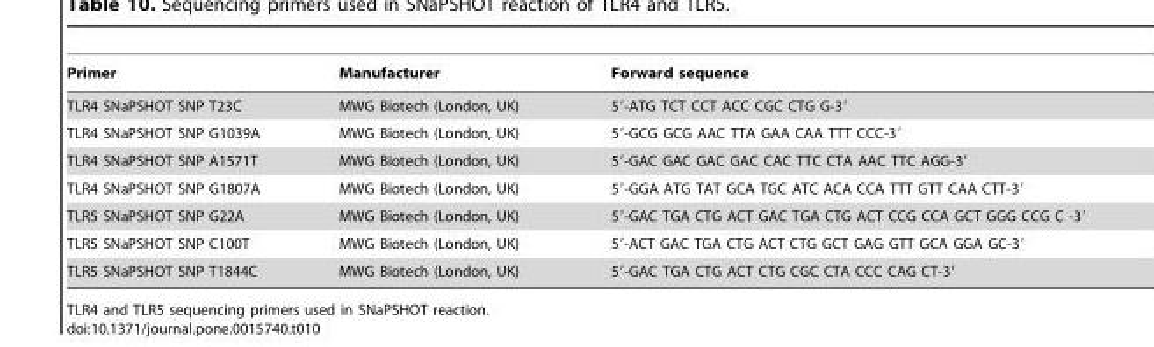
<table><thead><tr><td>Primer</td><td>Manufacturer</td><td>Forward sequence</td></tr></thead><tbody><tr><td>TLR4 SNaPSHOT SNP T23C</td><td>MWG Biotech (London, UK)</td><td>5′-ATG TCT CCT ACC CGC CTG G-3′</td></tr><tr><td>TLR4 SNaPSHOT SNP G1039A</td><td>MWG Biotech (London, UK)</td><td>5′-GCG GCG AAC TTA GAA CAA TTT CCC-3′</td></tr><tr><td>TLR4 SNaPSHOT SNP A1571T</td><td>MWG Biotech (London, UK)</td><td>5′-GAC GAC GAC GAC CAC TTC CTA AAC TTC AGG-3′</td></tr><tr><td>TLR4 SNaPSHOT SNP G1807A</td><td>MWG Biotech (London, UK)</td><td>5′-GGA ATG TAT GCA TGC ATC ACA CCA TTT GTT CAA CTT-3′</td></tr><tr><td>TLR5 SNaPSHOT SNP G22A</td><td>MWG Biotech (London, UK)</td><td>5′-GAC TGA CTG ACT GAC TGA CTG ACT CCG CCA GCT GGG CCG C -3′</td></tr><tr><td>TLR5 SNaPSHOT SNP C100T</td><td>MWG Biotech (London, UK)</td><td>5′-ACT GAC TGA CTG ACT CTG GCT GAG GTT GCA GGA GC-3′</td></tr><tr><td>TLR5 SNaPSHOT SNP T1844C</td><td>MWG Biotech (London, UK)</td><td>5′-GAC TGA CTG ACT CTG CGC CTA CCC CAG CT-3′</td></tr></tbody></table>